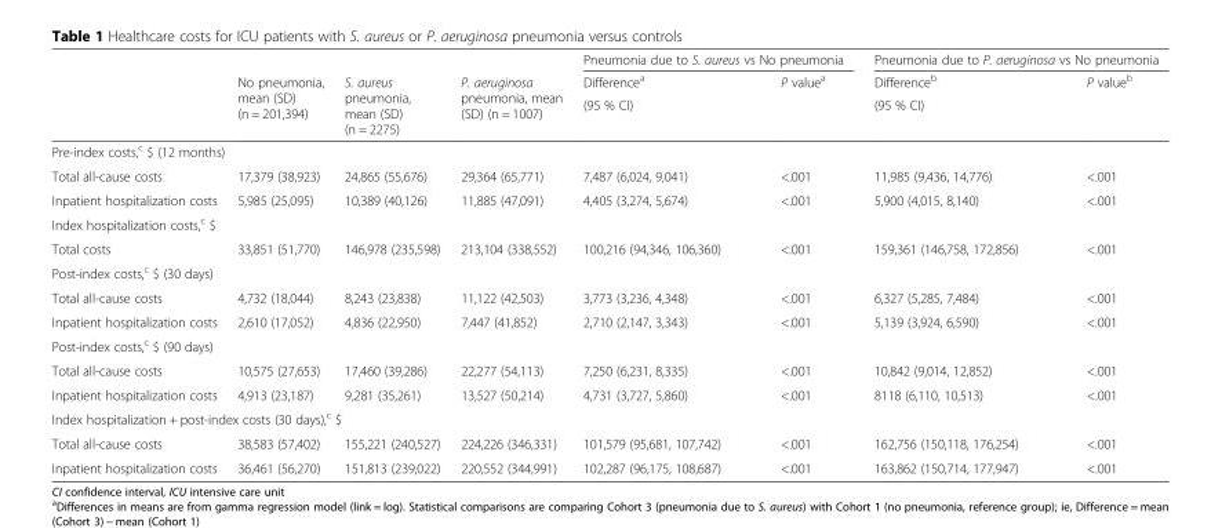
<table><thead><tr><td rowspan="3"></td><td rowspan="3">No pneumonia, mean (SD) (n = 201,394)</td><td rowspan="3">S. aureus pneumonia, mean (SD) (n = 2275)</td><td rowspan="3">P. aeruginosa pneumonia, mean (SD) (n = 1007)</td><td colspan="2">Pneumonia due to S. aureus vs No pneumonia</td><td colspan="2">Pneumonia due to P. aeruginosa vs No pneumonia</td></tr><tr><td rowspan="2">Difference<sup>a</sup> (95 % CI)</td><td rowspan="2">P value<sup>a</sup></td><td rowspan="2">Difference<sup>b</sup> (95 % CI)</td><td rowspan="2">P value<sup>b</sup></td></tr><tr></tr></thead><tbody><tr><td colspan="8">Pre-index costs,<sup>c</sup> $ (12 months)</td></tr><tr><td>Total all-cause costs</td><td>17,379 (38,923)</td><td>24,865 (55,676)</td><td>29,364 (65,771)</td><td>7,487 (6,024, 9,041)</td><td>&lt;.001</td><td>11,985 (9,436, 14,776)</td><td>&lt;.001</td></tr><tr><td>Inpatient hospitalization costs</td><td>5,985 (25,095)</td><td>10,389 (40,126)</td><td>11,885 (47,091)</td><td>4,405 (3,274, 5,674)</td><td>&lt;.001</td><td>5,900 (4,015, 8,140)</td><td>&lt;.001</td></tr><tr><td colspan="8">Index hospitalization costs,<sup>c</sup> $</td></tr><tr><td>Total costs</td><td>33,851 (51,770)</td><td>146,978 (235,598)</td><td>213,104 (338,552)</td><td>100,216 (94,346, 106,360)</td><td>&lt;.001</td><td>159,361 (146,758, 172,856)</td><td>&lt;.001</td></tr><tr><td colspan="8">Post-index costs,<sup>c</sup> $ (30 days)</td></tr><tr><td>Total all-cause costs</td><td>4,732 (18,044)</td><td>8,243 (23,838)</td><td>11,122 (42,503)</td><td>3,773 (3,236, 4,348)</td><td>&lt;.001</td><td>6,327 (5,285, 7,484)</td><td>&lt;.001</td></tr><tr><td>Inpatient hospitalization costs</td><td>2,610 (17,052)</td><td>4,836 (22,950)</td><td>7,447 (41,852)</td><td>2,710 (2,147, 3,343)</td><td>&lt;.001</td><td>5,139 (3,924, 6,590)</td><td>&lt;.001</td></tr><tr><td colspan="8">Post-index costs,<sup>c</sup> $ (90 days)</td></tr><tr><td>Total all-cause costs</td><td>10,575 (27,653)</td><td>17,460 (39,286)</td><td>22,277 (54,113)</td><td>7,250 (6,231, 8,335)</td><td>&lt;.001</td><td>10,842 (9,014, 12,852)</td><td>&lt;.001</td></tr><tr><td>Inpatient hospitalization costs</td><td>4,913 (23,187)</td><td>9,281 (35,261)</td><td>13,527 (50,214)</td><td>4,731 (3,727, 5,860)</td><td>&lt;.001</td><td>8118 (6,110, 10,513)</td><td>&lt;.001</td></tr><tr><td colspan="8">Index hospitalization + post-index costs (30 days),<sup>c</sup> $</td></tr><tr><td>Total all-cause costs</td><td>38,583 (57,402)</td><td>155,221 (240,527)</td><td>224,226 (346,331)</td><td>101,579 (95,681, 107,742)</td><td>&lt;.001</td><td>162,756 (150,118, 176,254)</td><td>&lt;.001</td></tr><tr><td>Inpatient hospitalization costs</td><td>36,461 (56,270)</td><td>151,813 (239,022)</td><td>220,552 (344,991)</td><td>102,287 (96,175, 108,687)</td><td>&lt;.001</td><td>163,862 (150,714, 177,947)</td><td>&lt;.001</td></tr></tbody></table>